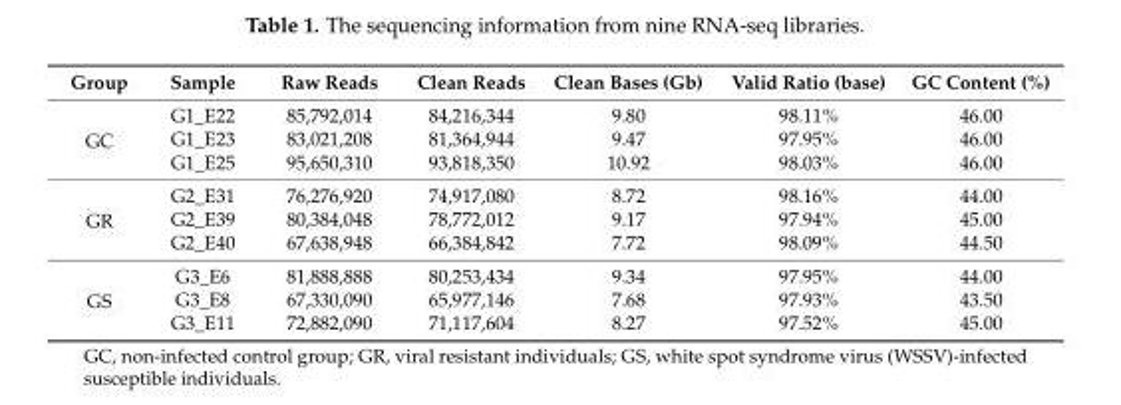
<table><thead><tr><td>Group</td><td>Sample</td><td>Raw Reads</td><td>Clean Reads</td><td>Clean Bases (Gb)</td><td>Valid Ratio (base)</td><td>GC Content (%)</td></tr></thead><tbody><tr><td rowspan="3">GC</td><td>G1_E22</td><td>85,792,014</td><td>84,216,344</td><td>9.80</td><td>98.11%</td><td>46.00</td></tr><tr><td>G1_E23</td><td>83,021,208</td><td>81,364,944</td><td>9.47</td><td>97.95%</td><td>46.00</td></tr><tr><td>G1_E25</td><td>95,650,310</td><td>93,818,350</td><td>10.92</td><td>98.03%</td><td>46.00</td></tr><tr><td rowspan="3">GR</td><td>G2_E31</td><td>76,276,920</td><td>74,917,080</td><td>8.72</td><td>98.16%</td><td>44.00</td></tr><tr><td>G2_E39</td><td>80,384,048</td><td>78,772,012</td><td>9.17</td><td>97.94%</td><td>45.00</td></tr><tr><td>G2_E40</td><td>67,638,948</td><td>66,384,842</td><td>7.72</td><td>98.09%</td><td>44.50</td></tr><tr><td rowspan="3">GS</td><td>G3_E6</td><td>81,888,888</td><td>80,253,434</td><td>9.34</td><td>97.95%</td><td>44.00</td></tr><tr><td>G3_E8</td><td>67,330,090</td><td>65,977,146</td><td>7.68</td><td>97.93%</td><td>43.50</td></tr><tr><td>G3_E11</td><td>72,882,090</td><td>71,117,604</td><td>8.27</td><td>97.52%</td><td>45.00</td></tr></tbody></table>